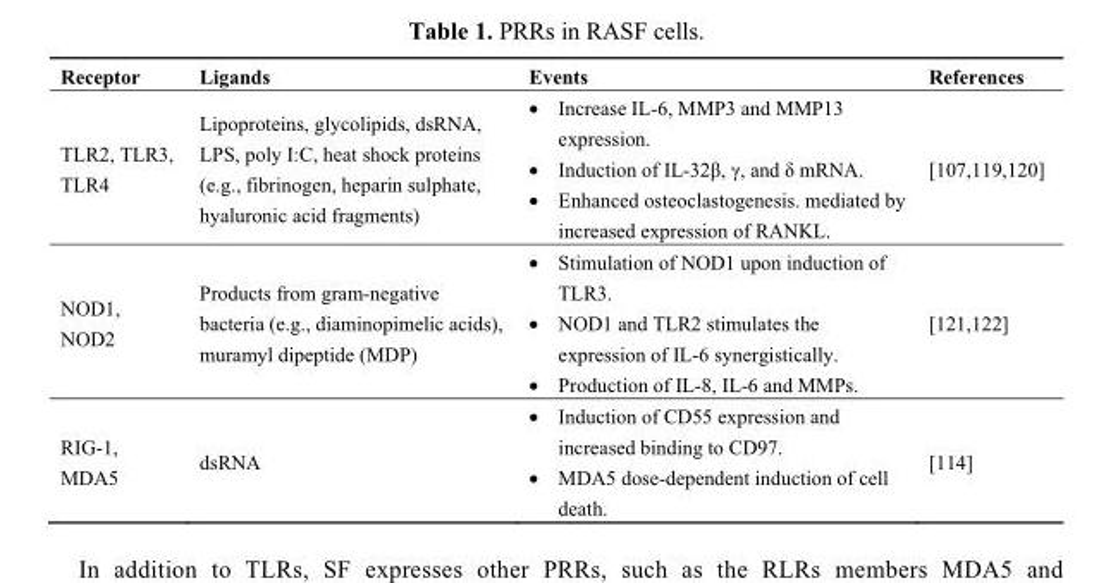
<table><thead><tr><td>Receptor</td><td>Ligands</td><td>Events</td><td>References</td></tr></thead><tbody><tr><td>TLR2, TLR3, TLR4</td><td>Lipoproteins, glycolipids, dsRNA, LPS, poly I:C, heat shock proteins (e.g., fibrinogen, heparin sulphate, hyaluronic acid fragments)</td><td>• Increase IL-6, MMP3 and MMP13 expression. • Induction of IL-32�, �, and � mRNA. • Enhanced osteoclastogenesis. mediated by increased expression of RANKL.</td><td>[107,119,120]</td></tr><tr><td>NOD1, NOD2</td><td>Products from gram-negative bacteria (e.g., diaminopimelic acids), muramyl dipeptide (MDP)</td><td>• Stimulation of NOD1 upon induction of TLR3. • NOD1 and TLR2 stimulates the expression of IL-6 synergistically. • Production of IL-8, IL-6 and MMPs.</td><td>[121,122]</td></tr><tr><td>RIG-1, MDA5</td><td>dsRNA</td><td>• Induction of CD55 expression and increased binding to CD97. • MDA5 dose-dependent induction of cell death.</td><td>[114]</td></tr></tbody></table>